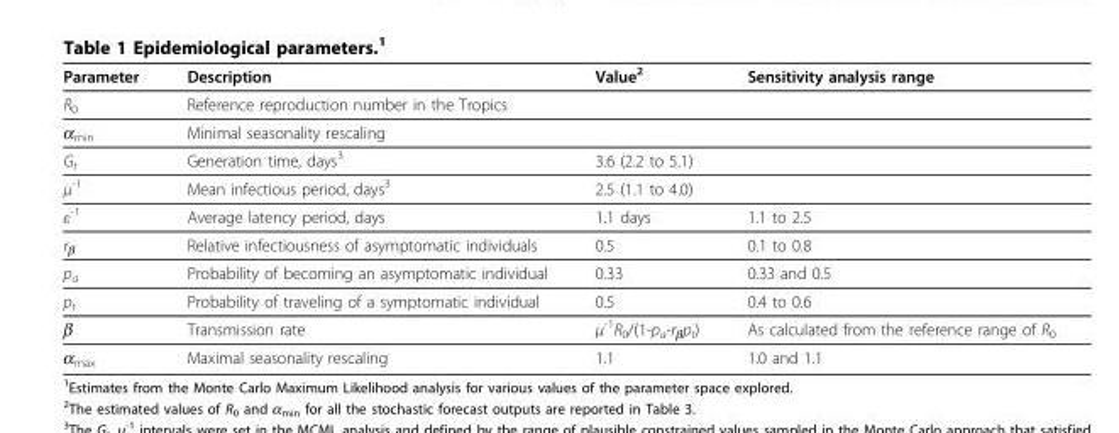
<table><thead><tr><td>Parameter</td><td>Description</td><td>Value<sup>2</sup></td><td>Sensitivity analysis range</td></tr></thead><tbody><tr><td>R<sub>0</sub></td><td>Reference reproduction number in the Tropics</td><td></td><td></td></tr><tr><td>α<sub>min</sub></td><td>Minimal seasonality rescaling</td><td></td><td></td></tr><tr><td>G<sub>t</sub></td><td>Generation time, days<sup>3</sup></td><td>3.6 (2.2 to 5.1)</td><td></td></tr><tr><td>μ<sup>-1</sup></td><td>Mean infectious period, days<sup>3</sup></td><td>2.5 (1.1 to 4.0)</td><td></td></tr><tr><td>ε<sup>-1</sup></td><td>Average latency period, days</td><td>1.1 days</td><td>1.1 to 2.5</td></tr><tr><td>r<sub>β</sub></td><td>Relative infectiousness of asymptomatic individuals</td><td>0.5</td><td>0.1 to 0.8</td></tr><tr><td>p<sub>a</sub></td><td>Probability of becoming an asymptomatic individual</td><td>0.33</td><td>0.33 and 0.5</td></tr><tr><td>p<sub>t</sub></td><td>Probability of traveling of a symptomatic individual</td><td>0.5</td><td>0.4 to 0.6</td></tr><tr><td>β</td><td>Transmission rate</td><td>μ<sup>-1</sup>R<sub>0</sub>/(1-p<sub>a</sub>-r<sub>β</sub>p<sub>t</sub>)</td><td>As calculated from the reference range of R<sub>0</sub></td></tr><tr><td>α<sub>max</sub></td><td>Maximal seasonality rescaling</td><td>1.1</td><td>1.0 and 1.1</td></tr></tbody></table>